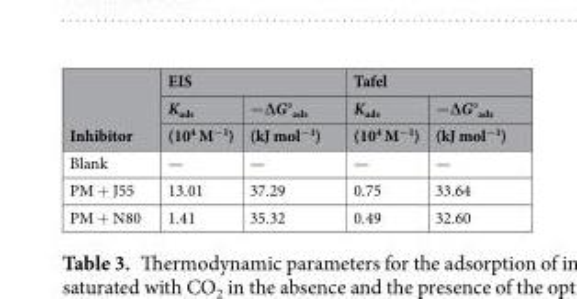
<table><thead><tr><td rowspan="3">Inhibitor</td><td colspan="2">EIS</td><td colspan="2">Tafel</td></tr><tr><td rowspan="2">K<sub>ads</sub> (10<sup>4</sup> M<sup>−1</sup>)</td><td rowspan="2">−∆G°<sub>ads</sub> (kJ mol<sup>−1</sup>)</td><td rowspan="2">K<sub>ads</sub> (10<sup>4</sup> M<sup>−1</sup>)</td><td rowspan="2">−∆G°<sub>ads</sub> (kJ mol<sup>−1</sup>)</td></tr><tr></tr></thead><tbody><tr><td>Blank</td><td>—</td><td>—</td><td>—</td><td>—</td></tr><tr><td>PM + J55</td><td>13.01</td><td>37.29</td><td>0.75</td><td>33.64</td></tr><tr><td>PM + N80</td><td>1.41</td><td>35.32</td><td>0.49</td><td>32.60</td></tr></tbody></table>